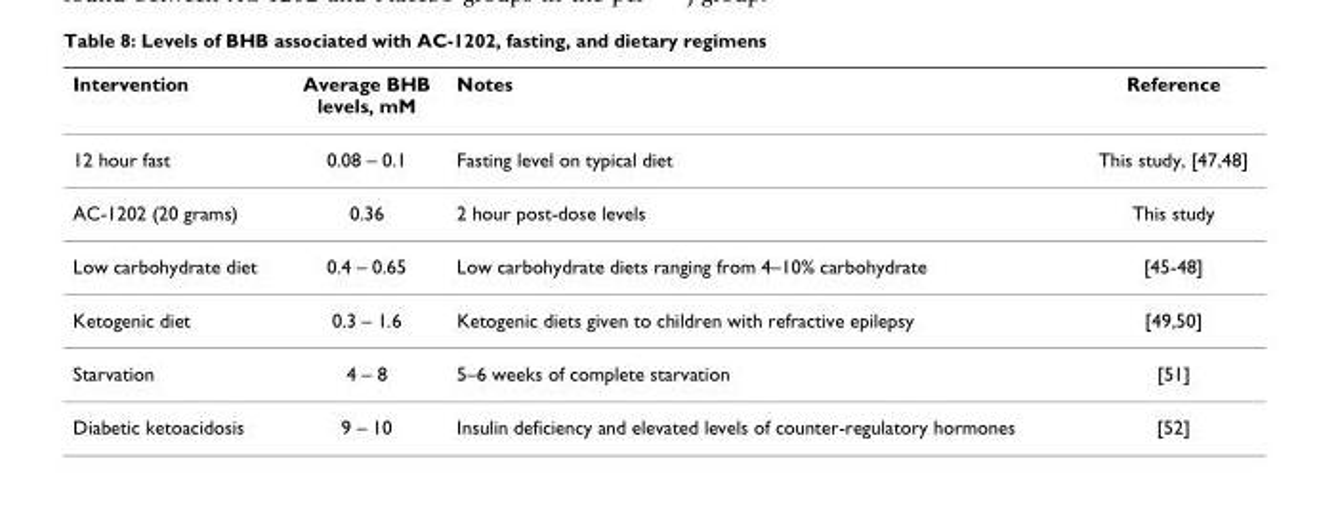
<table><thead><tr><td>Intervention</td><td>Average BHB levels, mM</td><td>Notes</td><td>Reference</td></tr></thead><tbody><tr><td>12 hour fast</td><td>0.08 – 0.1</td><td>Fasting level on typical diet</td><td>This study, [47,48]</td></tr><tr><td>AC-1202 (20 grams)</td><td>0.36</td><td>2 hour post-dose levels</td><td>This study</td></tr><tr><td>Low carbohydrate diet</td><td>0.4 – 0.65</td><td>Low carbohydrate diets ranging from 4–10% carbohydrate</td><td>[45-48]</td></tr><tr><td>Ketogenic diet</td><td>0.3 – 1.6</td><td>Ketogenic diets given to children with refractive epilepsy</td><td>[49,50]</td></tr><tr><td>Starvation</td><td>4 – 8</td><td>5–6 weeks of complete starvation</td><td>[51]</td></tr><tr><td>Diabetic ketoacidosis</td><td>9 – 10</td><td>Insulin deficiency and elevated levels of counter-regulatory hormones</td><td>[52]</td></tr></tbody></table>